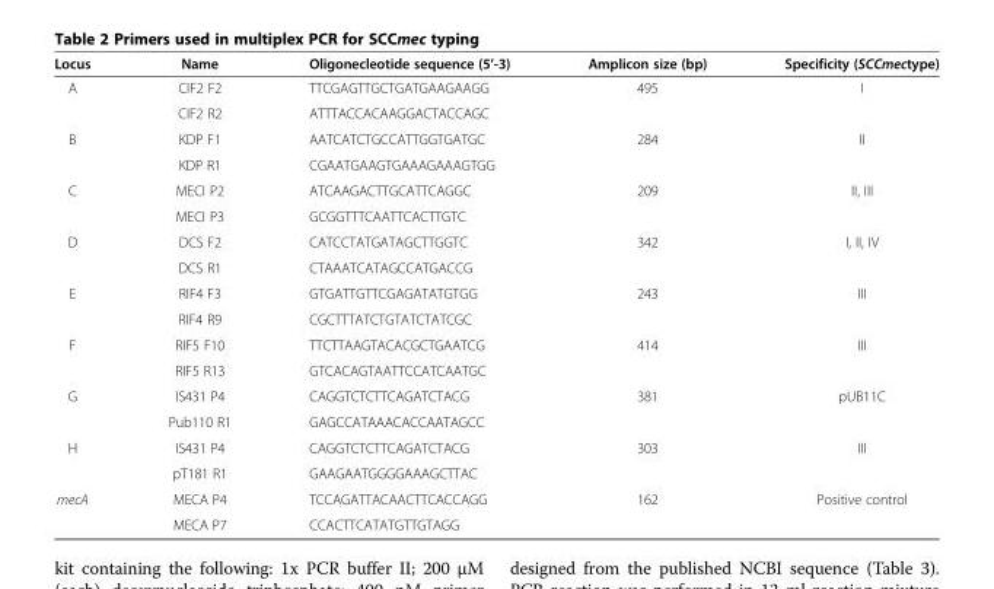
<table><thead><tr><td>Locus</td><td>Name</td><td>Oligonecleotide sequence (5’-3)</td><td>Amplicon size (bp)</td><td>Specificity (SCCmectype)</td></tr></thead><tbody><tr><td rowspan="2">A</td><td>CIF2 F2</td><td>TTCGAGTTGCTGATGAAGAAGG</td><td rowspan="2">495</td><td rowspan="2">I</td></tr><tr><td>CIF2 R2</td><td>ATTTACCACAAGGACTACCAGC</td></tr><tr><td rowspan="2">B</td><td>KDP F1</td><td>AATCATCTGCCATTGGTGATGC</td><td rowspan="2">284</td><td rowspan="2">II</td></tr><tr><td>KDP R1</td><td>CGAATGAAGTGAAAGAAAGTGG</td></tr><tr><td rowspan="2">C</td><td>MECI P2</td><td>ATCAAGACTTGCATTCAGGC</td><td rowspan="2">209</td><td rowspan="2">II, III</td></tr><tr><td>MECI P3</td><td>GCGGTTTCAATTCACTTGTC</td></tr><tr><td rowspan="2">D</td><td>DCS F2</td><td>CATCCTATGATAGCTTGGTC</td><td rowspan="2">342</td><td rowspan="2">I, II, IV</td></tr><tr><td>DCS R1</td><td>CTAAATCATAGCCATGACCG</td></tr><tr><td rowspan="2">E</td><td>RIF4 F3</td><td>GTGATTGTTCGAGATATGTGG</td><td rowspan="2">243</td><td rowspan="2">III</td></tr><tr><td>RIF4 R9</td><td>CGCTTTATCTGTATCTATCGC</td></tr><tr><td rowspan="2">F</td><td>RIF5 F10</td><td>TTCTTAAGTACACGCTGAATCG</td><td rowspan="2">414</td><td rowspan="2">III</td></tr><tr><td>RIF5 R13</td><td>GTCACAGTAATTCCATCAATGC</td></tr><tr><td rowspan="2">G</td><td>IS431 P4</td><td>CAGGTCTCTTCAGATCTACG</td><td rowspan="2">381</td><td rowspan="2">pUB11C</td></tr><tr><td>Pub110 R1</td><td>GAGCCATAAACACCAATAGCC</td></tr><tr><td rowspan="2">H</td><td>IS431 P4</td><td>CAGGTCTCTTCAGATCTACG</td><td rowspan="2">303</td><td rowspan="2">III</td></tr><tr><td>pT181 R1</td><td>GAAGAATGGGGAAAGCTTAC</td></tr><tr><td rowspan="2">mecA</td><td>MECA P4</td><td>TCCAGATTACAACTTCACCAGG</td><td rowspan="2">162</td><td rowspan="2">Positive control</td></tr><tr><td>MECA P7</td><td>CCACTTCATATGTTGTAGG</td></tr></tbody></table>